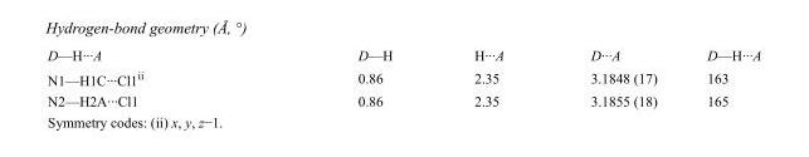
<table><tbody><tr><td>D—H···A</td><td>D—H</td><td>H···A</td><td>D···A</td><td>D—H···A</td></tr><tr><td>N1—H1C···Cl1<sup>ii</sup></td><td>0.86</td><td>2.35</td><td>3.1848 (17)</td><td>163</td></tr><tr><td>N2—H2A···Cl1</td><td>0.86</td><td>2.35</td><td>3.1855 (18)</td><td>165</td></tr></tbody></table>